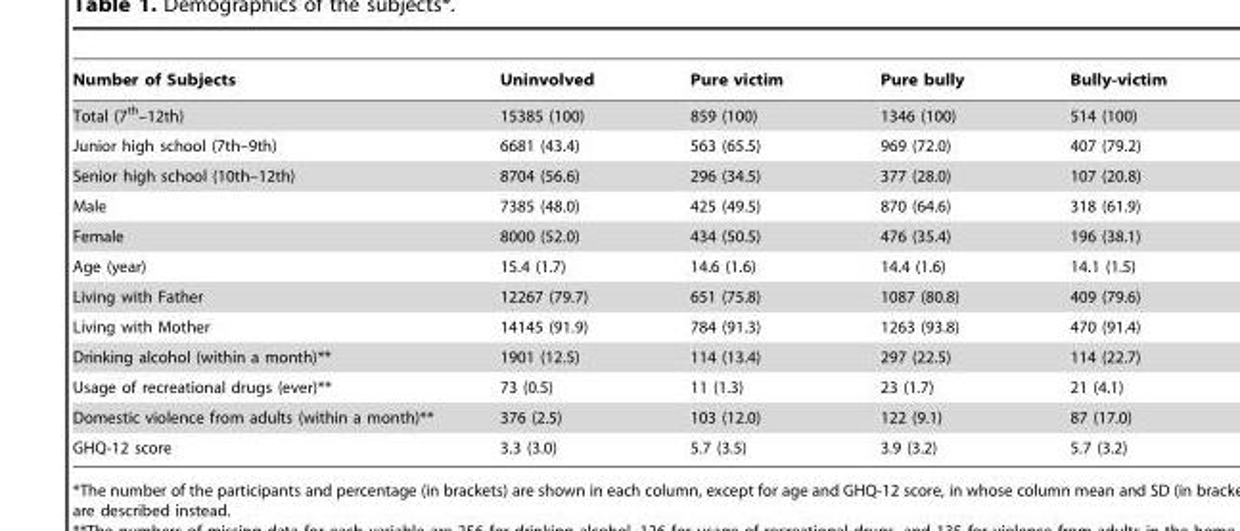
<table><thead><tr><td>Number of Subjects</td><td>Uninvolved</td><td>Pure victim</td><td>Pure bully</td><td>Bully-victim</td></tr></thead><tbody><tr><td>Total (7<sup>th</sup>–12th)</td><td>15385 (100)</td><td>859 (100)</td><td>1346 (100)</td><td>514 (100)</td></tr><tr><td>Junior high school (7th–9th)</td><td>6681 (43.4)</td><td>563 (65.5)</td><td>969 (72.0)</td><td>407 (79.2)</td></tr><tr><td>Senior high school (10th–12th)</td><td>8704 (56.6)</td><td>296 (34.5)</td><td>377 (28.0)</td><td>107 (20.8)</td></tr><tr><td>Male</td><td>7385 (48.0)</td><td>425 (49.5)</td><td>870 (64.6)</td><td>318 (61.9)</td></tr><tr><td>Female</td><td>8000 (52.0)</td><td>434 (50.5)</td><td>476 (35.4)</td><td>196 (38.1)</td></tr><tr><td>Age (year)</td><td>15.4 (1.7)</td><td>14.6 (1.6)</td><td>14.4 (1.6)</td><td>14.1 (1.5)</td></tr><tr><td>Living with Father</td><td>12267 (79.7)</td><td>651 (75.8)</td><td>1087 (80.8)</td><td>409 (79.6)</td></tr><tr><td>Living with Mother</td><td>14145 (91.9)</td><td>784 (91.3)</td><td>1263 (93.8)</td><td>470 (91.4)</td></tr><tr><td>Drinking alcohol (within a month)**</td><td>1901 (12.5)</td><td>114 (13.4)</td><td>297 (22.5)</td><td>114 (22.7)</td></tr><tr><td>Usage of recreational drugs (ever)**</td><td>73 (0.5)</td><td>11 (1.3)</td><td>23 (1.7)</td><td>21 (4.1)</td></tr><tr><td>Domestic violence from adults (within a month)**</td><td>376 (2.5)</td><td>103 (12.0)</td><td>122 (9.1)</td><td>87 (17.0)</td></tr><tr><td>GHQ-12 score</td><td>3.3 (3.0)</td><td>5.7 (3.5)</td><td>3.9 (3.2)</td><td>5.7 (3.2)</td></tr></tbody></table>